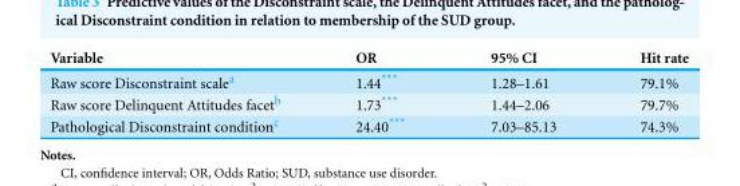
<table><thead><tr><td>Variable</td><td>OR</td><td>95% CI</td><td>Hit rate</td></tr></thead><tbody><tr><td>Raw score Disconstraint scale<sup>a</sup></td><td>1.44***</td><td>1.28–1.61</td><td>79.1%</td></tr><tr><td>Raw score Delinquent Attitudes facet<sup>b</sup></td><td>1.73***</td><td>1.44–2.06</td><td>79.7%</td></tr><tr><td>Pathological Disconstraint condition<sup>c</sup></td><td>24.40***</td><td>7.03–85.13</td><td>74.3%</td></tr></tbody></table>